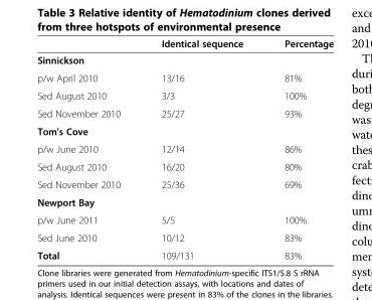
<table><thead><tr><td></td><td>Identical sequence</td><td>Percentage</td></tr></thead><tbody><tr><td colspan="3">Sinnickson</td></tr><tr><td>p/w April 2010</td><td>13/16</td><td>81%</td></tr><tr><td>Sed August 2010</td><td>3/3</td><td>100%</td></tr><tr><td>Sed November 2010</td><td>25/27</td><td>93%</td></tr><tr><td colspan="3">Tom&#x27;s Cove</td></tr><tr><td>p/w June 2010</td><td>12/14</td><td>86%</td></tr><tr><td>Sed August 2010</td><td>16/20</td><td>80%</td></tr><tr><td>Sed November 2010</td><td>25/36</td><td>69%</td></tr><tr><td colspan="3">Newport Bay</td></tr><tr><td>p/w June 2011</td><td>5/5</td><td>100%</td></tr><tr><td>Sed June 2010</td><td>10/12</td><td>83%</td></tr><tr><td>Total</td><td>109/131</td><td>83%</td></tr></tbody></table>